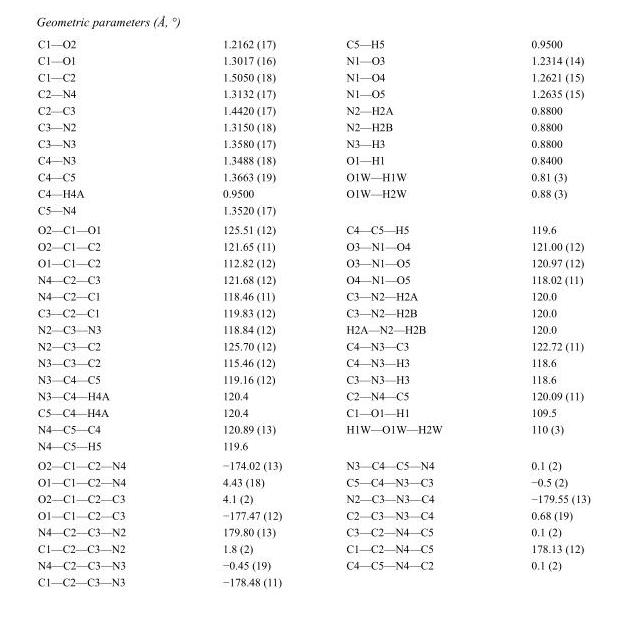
<table><tbody><tr><td>C1—O2</td><td>1.2162 (17)</td><td>C5—H5</td><td>0.9500</td></tr><tr><td>C1—O1</td><td>1.3017 (16)</td><td>N1—O3</td><td>1.2314 (14)</td></tr><tr><td>C1—C2</td><td>1.5050 (18)</td><td>N1—O4</td><td>1.2621 (15)</td></tr><tr><td>C2—N4</td><td>1.3132 (17)</td><td>N1—O5</td><td>1.2635 (15)</td></tr><tr><td>C2—C3</td><td>1.4420 (17)</td><td>N2—H2A</td><td>0.8800</td></tr><tr><td>C3—N2</td><td>1.3150 (18)</td><td>N2—H2B</td><td>0.8800</td></tr><tr><td>C3—N3</td><td>1.3580 (17)</td><td>N3—H3</td><td>0.8800</td></tr><tr><td>C4—N3</td><td>1.3488 (18)</td><td>O1—H1</td><td>0.8400</td></tr><tr><td>C4—C5</td><td>1.3663 (19)</td><td>O1W—H1W</td><td>0.81 (3)</td></tr><tr><td>C4—H4A</td><td>0.9500</td><td>O1W—H2W</td><td>0.88 (3)</td></tr><tr><td>C5—N4</td><td>1.3520 (17)</td><td></td><td></td></tr><tr><td>O2—C1—O1</td><td>125.51 (12)</td><td>C4—C5—H5</td><td>119.6</td></tr><tr><td>O2—C1—C2</td><td>121.65 (11)</td><td>O3—N1—O4</td><td>121.00 (12)</td></tr><tr><td>O1—C1—C2</td><td>112.82 (12)</td><td>O3—N1—O5</td><td>120.97 (12)</td></tr><tr><td>N4—C2—C3</td><td>121.68 (12)</td><td>O4—N1—O5</td><td>118.02 (11)</td></tr><tr><td>N4—C2—C1</td><td>118.46 (11)</td><td>C3—N2—H2A</td><td>120.0</td></tr><tr><td>C3—C2—C1</td><td>119.83 (12)</td><td>C3—N2—H2B</td><td>120.0</td></tr><tr><td>N2—C3—N3</td><td>118.84 (12)</td><td>H2A—N2—H2B</td><td>120.0</td></tr><tr><td>N2—C3—C2</td><td>125.70 (12)</td><td>C4—N3—C3</td><td>122.72 (11)</td></tr><tr><td>N3—C3—C2</td><td>115.46 (12)</td><td>C4—N3—H3</td><td>118.6</td></tr><tr><td>N3—C4—C5</td><td>119.16 (12)</td><td>C3—N3—H3</td><td>118.6</td></tr><tr><td>N3—C4—H4A</td><td>120.4</td><td>C2—N4—C5</td><td>120.09 (11)</td></tr><tr><td>C5—C4—H4A</td><td>120.4</td><td>C1—O1—H1</td><td>109.5</td></tr><tr><td>N4—C5—C4</td><td>120.89 (13)</td><td>H1W—O1W—H2W</td><td>110 (3)</td></tr><tr><td>N4—C5—H5</td><td>119.6</td><td></td><td></td></tr><tr><td>O2—C1—C2—N4</td><td>−174.02 (13)</td><td>N3—C4—C5—N4</td><td>0.1 (2)</td></tr><tr><td>O1—C1—C2—N4</td><td>4.43 (18)</td><td>C5—C4—N3—C3</td><td>−0.5 (2)</td></tr><tr><td>O2—C1—C2—C3</td><td>4.1 (2)</td><td>N2—C3—N3—C4</td><td>−179.55 (13)</td></tr><tr><td>O1—C1—C2—C3</td><td>−177.47 (12)</td><td>C2—C3—N3—C4</td><td>0.68 (19)</td></tr><tr><td>N4—C2—C3—N2</td><td>179.80 (13)</td><td>C3—C2—N4—C5</td><td>0.1 (2)</td></tr><tr><td>C1—C2—C3—N2</td><td>1.8 (2)</td><td>C1—C2—N4—C5</td><td>178.13 (12)</td></tr><tr><td>N4—C2—C3—N3</td><td>−0.45 (19)</td><td>C4—C5—N4—C2</td><td>0.1 (2)</td></tr><tr><td>C1—C2—C3—N3</td><td>−178.48 (11)</td><td></td><td></td></tr></tbody></table>